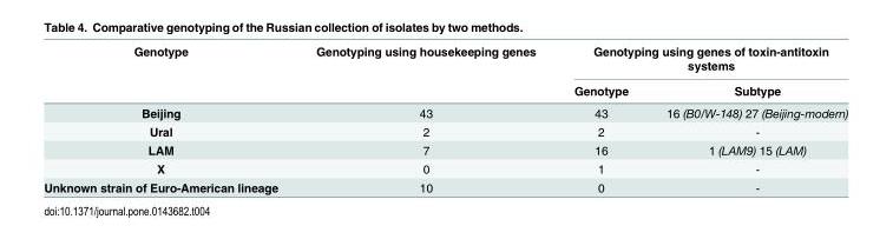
<table><thead><tr><td rowspan="2">Genotype</td><td rowspan="2">Genotyping using housekeeping genes</td><td colspan="2">Genotyping using genes of toxin-antitoxin systems</td></tr><tr><td>Genotype</td><td>Subtype</td></tr></thead><tbody><tr><td>Beijing</td><td>43</td><td>43</td><td>16 (B0/W-148) 27 (Beijing-modern)</td></tr><tr><td>Ural</td><td>2</td><td>2</td><td>-</td></tr><tr><td>LAM</td><td>7</td><td>16</td><td>1 (LAM9) 15 (LAM)</td></tr><tr><td>X</td><td>0</td><td>1</td><td>-</td></tr><tr><td>Unknown strain of Euro-American lineage</td><td>10</td><td>0</td><td>-</td></tr></tbody></table>